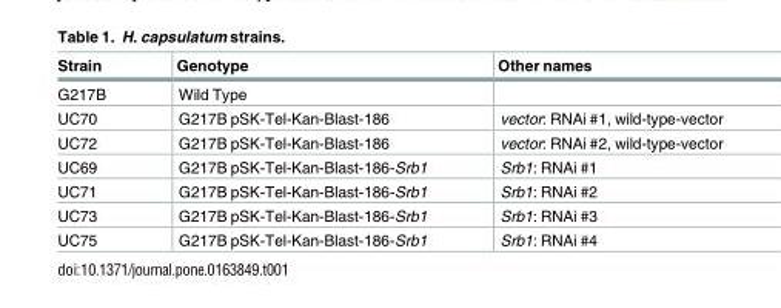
<table><thead><tr><td>Strain</td><td>Genotype</td><td>Other names</td></tr></thead><tbody><tr><td>G217B</td><td>Wild Type</td><td></td></tr><tr><td>UC70</td><td>G217B pSK-Tel-Kan-Blast-186</td><td>vector: RNAi #1, wild-type-vector</td></tr><tr><td>UC72</td><td>G217B pSK-Tel-Kan-Blast-186</td><td>vector: RNAi #2, wild-type-vector</td></tr><tr><td>UC69</td><td>G217B pSK-Tel-Kan-Blast-186-Srb1</td><td>Srb1: RNAi #1</td></tr><tr><td>UC71</td><td>G217B pSK-Tel-Kan-Blast-186-Srb1</td><td>Srb1: RNAi #2</td></tr><tr><td>UC73</td><td>G217B pSK-Tel-Kan-Blast-186-Srb1</td><td>Srb1: RNAi #3</td></tr><tr><td>UC75</td><td>G217B pSK-Tel-Kan-Blast-186-Srb1</td><td>Srb1: RNAi #4</td></tr></tbody></table>